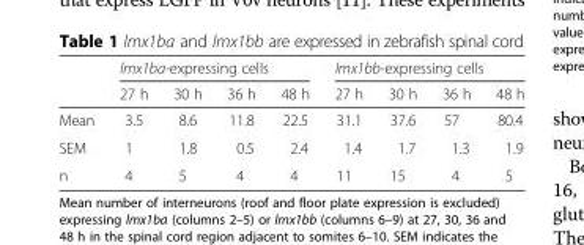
<table><thead><tr><td rowspan="2"></td><td colspan="4">lmx1ba-expressing cells</td><td colspan="4">lmx1bb-expressing cells</td></tr><tr><td>27 h</td><td>30 h</td><td>36 h</td><td>48 h</td><td>27 h</td><td>30 h</td><td>36 h</td><td>48 h</td></tr></thead><tbody><tr><td>Mean</td><td>3.5</td><td>8.6</td><td>11.8</td><td>22.5</td><td>31.1</td><td>37.6</td><td>57</td><td>80.4</td></tr><tr><td>SEM</td><td>1</td><td>1.8</td><td>0.5</td><td>2.4</td><td>1.4</td><td>1.7</td><td>1.3</td><td>1.9</td></tr><tr><td>n</td><td>4</td><td>5</td><td>4</td><td>4</td><td>11</td><td>15</td><td>4</td><td>5</td></tr></tbody></table>